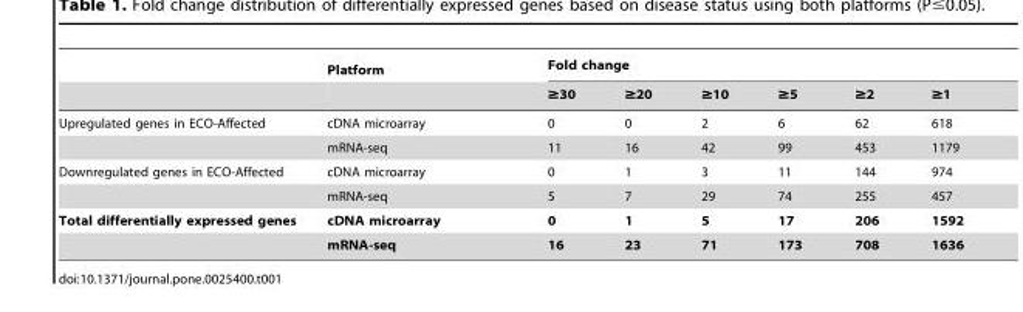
<table><thead><tr><td rowspan="2"></td><td rowspan="2">Platform</td><td colspan="6">Fold change</td></tr><tr><td>≥30</td><td>≥20</td><td>≥10</td><td>≥5</td><td>≥2</td><td>≥1</td></tr></thead><tbody><tr><td rowspan="2">Upregulated genes in ECO-Affected</td><td>cDNA microarray</td><td>0</td><td>0</td><td>2</td><td>6</td><td>62</td><td>618</td></tr><tr><td>mRNA-seq</td><td>11</td><td>16</td><td>42</td><td>99</td><td>453</td><td>1179</td></tr><tr><td rowspan="2">Downregulated genes in ECO-Affected</td><td>cDNA microarray</td><td>0</td><td>1</td><td>3</td><td>11</td><td>144</td><td>974</td></tr><tr><td>mRNA-seq</td><td>5</td><td>7</td><td>29</td><td>74</td><td>255</td><td>457</td></tr><tr><td rowspan="2">Total differentially expressed genes</td><td>cDNA microarray</td><td>0</td><td>1</td><td>5</td><td>17</td><td>206</td><td>1592</td></tr><tr><td>mRNA-seq</td><td>16</td><td>23</td><td>71</td><td>173</td><td>708</td><td>1636</td></tr></tbody></table>